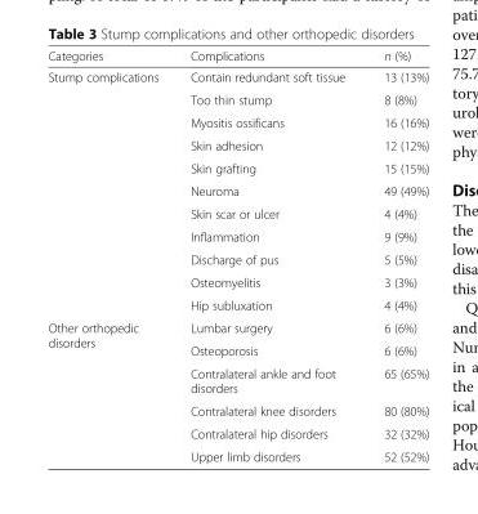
<table><thead><tr><td>Categories</td><td>Complications</td><td>n (%)</td></tr></thead><tbody><tr><td rowspan="11">Stump complications</td><td>Contain redundant soft tissue</td><td>13 (13%)</td></tr><tr><td>Too thin stump</td><td>8 (8%)</td></tr><tr><td>Myositis ossificans</td><td>16 (16%)</td></tr><tr><td>Skin adhesion</td><td>12 (12%)</td></tr><tr><td>Skin grafting</td><td>15 (15%)</td></tr><tr><td>Neuroma</td><td>49 (49%)</td></tr><tr><td>Skin scar or ulcer</td><td>4 (4%)</td></tr><tr><td>Inflammation</td><td>9 (9%)</td></tr><tr><td>Discharge of pus</td><td>5 (5%)</td></tr><tr><td>Osteomyelitis</td><td>3 (3%)</td></tr><tr><td>Hip subluxation</td><td>4 (4%)</td></tr><tr><td rowspan="6">Other orthopedic disorders</td><td>Lumbar surgery</td><td>6 (6%)</td></tr><tr><td>Osteoporosis</td><td>6 (6%)</td></tr><tr><td>Contralateral ankle and foot disorders</td><td>65 (65%)</td></tr><tr><td>Contralateral knee disorders</td><td>80 (80%)</td></tr><tr><td>Contralateral hip disorders</td><td>32 (32%)</td></tr><tr><td>Upper limb disorders</td><td>52 (52%)</td></tr></tbody></table>